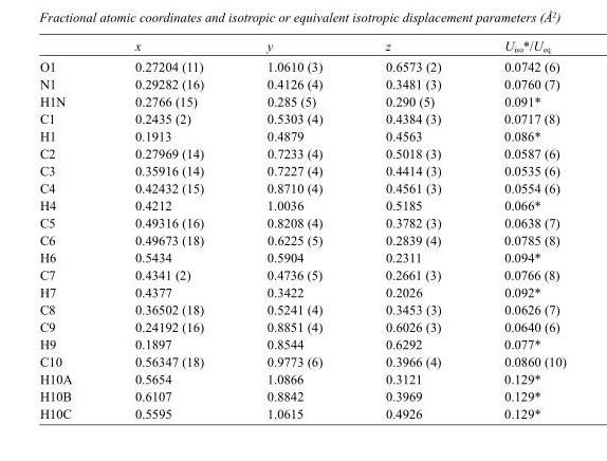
<table><thead><tr><td></td><td>x</td><td>y</td><td>z</td><td>U<sub>iso</sub>*/U<sub>eq</sub></td></tr></thead><tbody><tr><td>O1</td><td>0.27204 (11)</td><td>1.0610 (3)</td><td>0.6573 (2)</td><td>0.0742 (6)</td></tr><tr><td>N1</td><td>0.29282 (16)</td><td>0.4126 (4)</td><td>0.3481 (3)</td><td>0.0760 (7)</td></tr><tr><td>H1N</td><td>0.2766 (15)</td><td>0.285 (5)</td><td>0.290 (5)</td><td>0.091*</td></tr><tr><td>C1</td><td>0.2435 (2)</td><td>0.5303 (4)</td><td>0.4384 (3)</td><td>0.0717 (8)</td></tr><tr><td>H1</td><td>0.1913</td><td>0.4879</td><td>0.4563</td><td>0.086*</td></tr><tr><td>C2</td><td>0.27969 (14)</td><td>0.7233 (4)</td><td>0.5018 (3)</td><td>0.0587 (6)</td></tr><tr><td>C3</td><td>0.35916 (14)</td><td>0.7227 (4)</td><td>0.4414 (3)</td><td>0.0535 (6)</td></tr><tr><td>C4</td><td>0.42432 (15)</td><td>0.8710 (4)</td><td>0.4561 (3)</td><td>0.0554 (6)</td></tr><tr><td>H4</td><td>0.4212</td><td>1.0036</td><td>0.5185</td><td>0.066*</td></tr><tr><td>C5</td><td>0.49316 (16)</td><td>0.8208 (4)</td><td>0.3782 (3)</td><td>0.0638 (7)</td></tr><tr><td>C6</td><td>0.49673 (18)</td><td>0.6225 (5)</td><td>0.2839 (4)</td><td>0.0785 (8)</td></tr><tr><td>H6</td><td>0.5434</td><td>0.5904</td><td>0.2311</td><td>0.094*</td></tr><tr><td>C7</td><td>0.4341 (2)</td><td>0.4736 (5)</td><td>0.2661 (3)</td><td>0.0766 (8)</td></tr><tr><td>H7</td><td>0.4377</td><td>0.3422</td><td>0.2026</td><td>0.092*</td></tr><tr><td>C8</td><td>0.36502 (18)</td><td>0.5241 (4)</td><td>0.3453 (3)</td><td>0.0626 (7)</td></tr><tr><td>C9</td><td>0.24192 (16)</td><td>0.8851 (4)</td><td>0.6026 (3)</td><td>0.0640 (6)</td></tr><tr><td>H9</td><td>0.1897</td><td>0.8544</td><td>0.6292</td><td>0.077*</td></tr><tr><td>C10</td><td>0.56347 (18)</td><td>0.9773 (6)</td><td>0.3966 (4)</td><td>0.0860 (10)</td></tr><tr><td>H10A</td><td>0.5654</td><td>1.0866</td><td>0.3121</td><td>0.129*</td></tr><tr><td>H10B</td><td>0.6107</td><td>0.8842</td><td>0.3969</td><td>0.129*</td></tr><tr><td>H10C</td><td>0.5595</td><td>1.0615</td><td>0.4926</td><td>0.129*</td></tr></tbody></table>